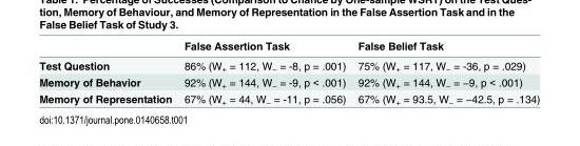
<table><thead><tr><td></td><td>False Assertion Task</td><td>False Belief Task</td></tr></thead><tbody><tr><td>Test Question</td><td>86% (W<sub>+</sub> = 112, W<sub>−</sub> = -8, p = .001)</td><td>75% (W<sub>+</sub> = 117, W<sub>−</sub> = -36, p = .029)</td></tr><tr><td>Memory of Behavior</td><td>92% (W<sub>+</sub> = 144, W<sub>−</sub> = -9, p &lt; .001)</td><td>92% (W<sub>+</sub> = 144, W<sub>−</sub> = −9, p &lt; .001)</td></tr><tr><td>Memory of Representation</td><td>67% (W<sub>+</sub> = 44, W<sub>−</sub> = -11, p = .056)</td><td>67% (W<sub>+</sub> = 93.5, W<sub>−</sub> = −42.5, p = .134)</td></tr></tbody></table>